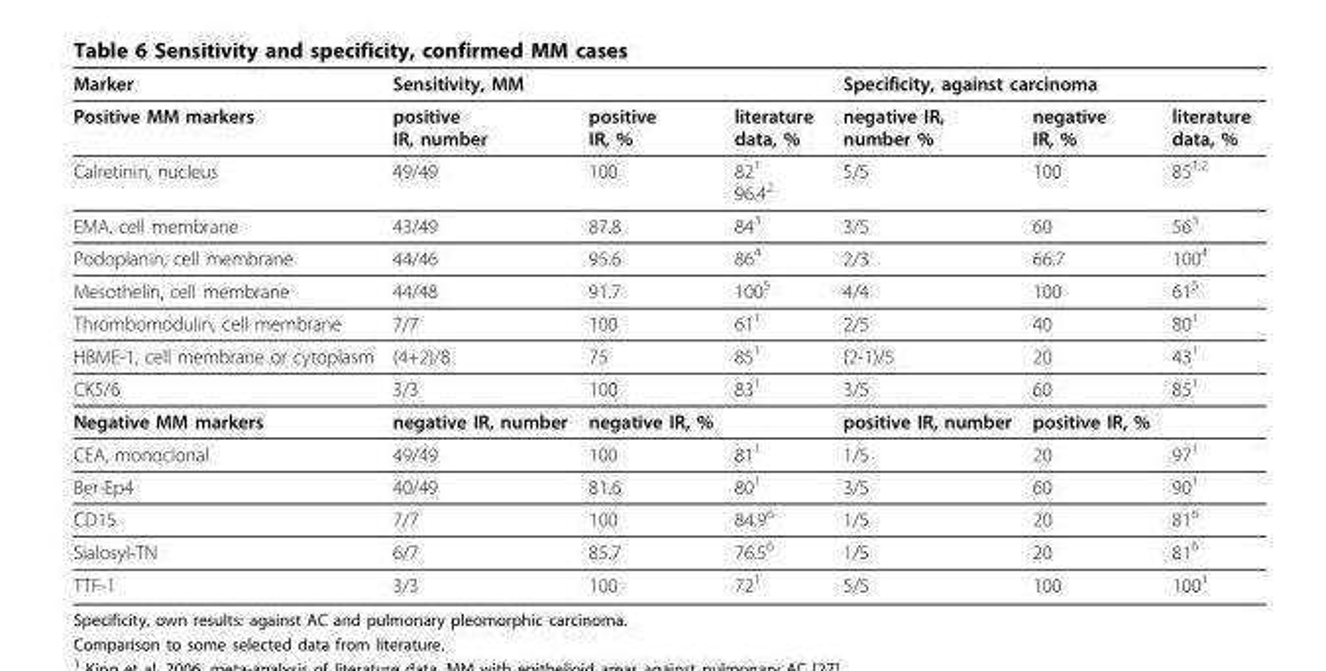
<table><thead><tr><td rowspan="2">Marker Positive MM markers</td><td colspan="3">Sensitivity, MM</td><td colspan="3">Specificity, against carcinoma</td></tr><tr><td>positive IR, number</td><td>positive IR, %</td><td>literature data, %</td><td>negative IR, number %</td><td>negative IR, %</td><td>literature data, %</td></tr></thead><tbody><tr><td>Calretinin, nucleus</td><td>49/49</td><td>100</td><td>82<sup>1</sup> 96.4<sup>2</sup></td><td>5/5</td><td>100</td><td>85<sup>1;2</sup></td></tr><tr><td>EMA, cell membrane</td><td>43/49</td><td>87.8</td><td>84<sup>3</sup></td><td>3/5</td><td>60</td><td>56<sup>3</sup></td></tr><tr><td>Podoplanin, cell membrane</td><td>44/46</td><td>95.6</td><td>86<sup>4</sup></td><td>2/3</td><td>66.7</td><td>100<sup>4</sup></td></tr><tr><td>Mesothelin, cell membrane</td><td>44/48</td><td>91.7</td><td>100<sup>5</sup></td><td>4/4</td><td>100</td><td>61<sup>5</sup></td></tr><tr><td>Thrombomodulin, cell membrane</td><td>7/7</td><td>100</td><td>61<sup>1</sup></td><td>2/5</td><td>40</td><td>80<sup>1</sup></td></tr><tr><td>HBME-1, cell membrane or cytoplasm</td><td>(4+2)/8</td><td>75</td><td>85<sup>1</sup></td><td>(2-1)/5</td><td>20</td><td>43<sup>1</sup></td></tr><tr><td>CK5/6</td><td>3/3</td><td>100</td><td>83<sup>1</sup></td><td>3/5</td><td>60</td><td>85<sup>1</sup></td></tr><tr><td>Negative MM markers</td><td>negative IR, number</td><td>negative IR, %</td><td></td><td>positive IR, number</td><td>positive IR, %</td><td></td></tr><tr><td>CEA, monoclonal</td><td>49/49</td><td>100</td><td>81<sup>1</sup></td><td>1/5</td><td>20</td><td>97<sup>1</sup></td></tr><tr><td>Ber-Ep4</td><td>40/49</td><td>81.6</td><td>80<sup>1</sup></td><td>3/5</td><td>60</td><td>90<sup>1</sup></td></tr><tr><td>CD15</td><td>7/7</td><td>100</td><td>84.9<sup>6</sup></td><td>1/5</td><td>20</td><td>81<sup>6</sup></td></tr><tr><td>Sialosyl-TN</td><td>6/7</td><td>85.7</td><td>76.5<sup>6</sup></td><td>1/5</td><td>20</td><td>81<sup>6</sup></td></tr><tr><td>TTF-1</td><td>3/3</td><td>100</td><td>72<sup>1</sup></td><td>5/5</td><td>100</td><td>100<sup>1</sup></td></tr></tbody></table>